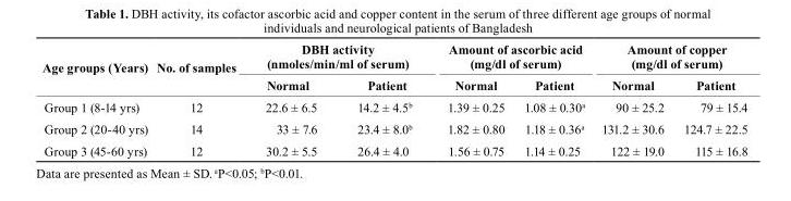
<table><thead><tr><td rowspan="2">Age groups (Years)</td><td rowspan="2">no. of samples</td><td colspan="2">DBH activity (nmoles/min/ml of serum)</td><td colspan="2">Amount of ascorbic acid (mg/dl of serum)</td><td colspan="2">Amount of copper (mg/dl of serum)</td></tr><tr><td>normal</td><td>Patient</td><td>normal</td><td>Patient</td><td>normal</td><td>Patient</td></tr></thead><tbody><tr><td>Group 1 (8-14 yrs)</td><td>12</td><td>22.6 ± 6.5</td><td>14.2 ± 4.5<sup>b</sup></td><td>1.39 ± 0.25</td><td>1.08 ± 0.30<sup>a</sup></td><td>90 ± 25.2</td><td>79 ± 15.4</td></tr><tr><td>Group 2 (20-40 yrs)</td><td>14</td><td>33 ± 7.6</td><td>23.4 ± 8.0<sup>b</sup></td><td>1.82 ± 0.80</td><td>1.18 ± 0.36<sup>a</sup></td><td>131.2 ± 30.6</td><td>124.7 ± 22.5</td></tr><tr><td>Group 3 (45-60 yrs)</td><td>12</td><td>30.2 ± 5.5</td><td>26.4 ± 4.0</td><td>1.56 ± 0.75</td><td>1.14 ± 0.25</td><td>122 ± 19.0</td><td>115 ± 16.8</td></tr></tbody></table>